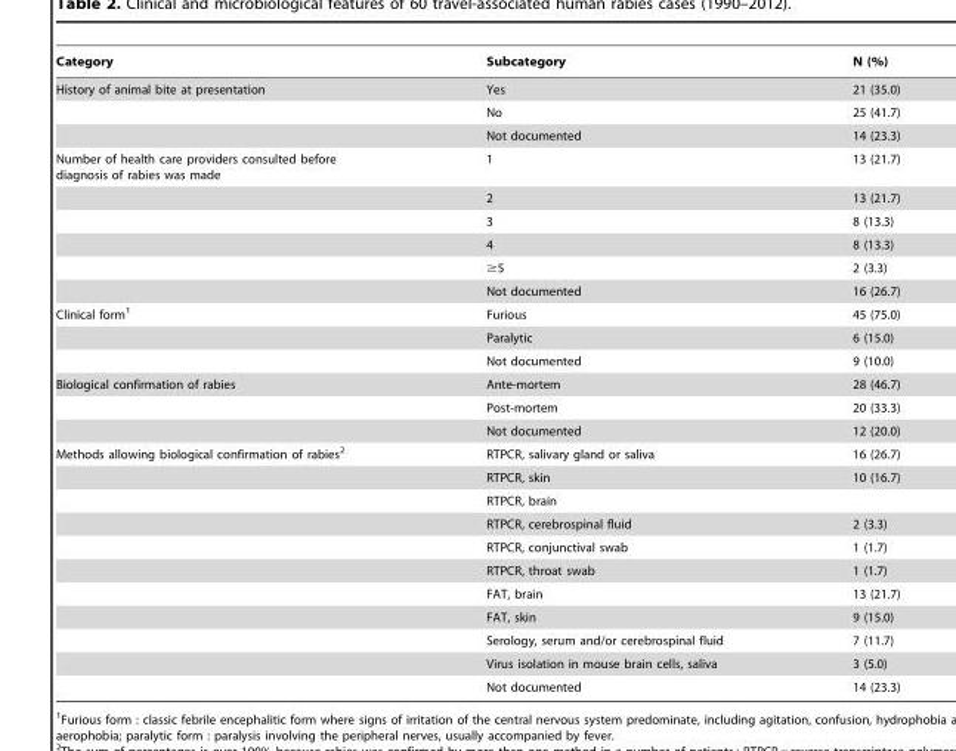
<table><thead><tr><td>Category</td><td>Subcategory</td><td>N (%)</td></tr></thead><tbody><tr><td rowspan="3">History of animal bite at presentation</td><td>Yes</td><td>21 (35.0)</td></tr><tr><td>No</td><td>25 (41.7)</td></tr><tr><td>Not documented</td><td>14 (23.3)</td></tr><tr><td rowspan="6">Number of health care providers consulted before diagnosis of rabies was made</td><td>1</td><td>13 (21.7)</td></tr><tr><td>2</td><td>13 (21.7)</td></tr><tr><td>3</td><td>8 (13.3)</td></tr><tr><td>4</td><td>8 (13.3)</td></tr><tr><td>≥5</td><td>2 (3.3)</td></tr><tr><td>Not documented</td><td>16 (26.7)</td></tr><tr><td rowspan="3">Clinical form<sup>1</sup></td><td>Furious</td><td>45 (75.0)</td></tr><tr><td>Paralytic</td><td>6 (15.0)</td></tr><tr><td>Not documented</td><td>9 (10.0)</td></tr><tr><td rowspan="3">Biological confirmation of rabies</td><td>Ante-mortem</td><td>28 (46.7)</td></tr><tr><td>Post-mortem</td><td>20 (33.3)</td></tr><tr><td>Not documented</td><td>12 (20.0)</td></tr><tr><td rowspan="11">Methods allowing biological confirmation of rabies<sup>2</sup></td><td>RTPCR, salivary gland or saliva</td><td>16 (26.7)</td></tr><tr><td>RTPCR, skin</td><td>10 (16.7)</td></tr><tr><td>RTPCR, brain</td><td></td></tr><tr><td>RTPCR, cerebrospinal fluid</td><td>2 (3.3)</td></tr><tr><td>RTPCR, conjunctival swab</td><td>1 (1.7)</td></tr><tr><td>RTPCR, throat swab</td><td>1 (1.7)</td></tr><tr><td>FAT, brain</td><td>13 (21.7)</td></tr><tr><td>FAT, skin</td><td>9 (15.0)</td></tr><tr><td>Serology, serum and/or cerebrospinal fluid</td><td>7 (11.7)</td></tr><tr><td>Virus isolation in mouse brain cells, saliva</td><td>3 (5.0)</td></tr><tr><td>Not documented</td><td>14 (23.3)</td></tr></tbody></table>